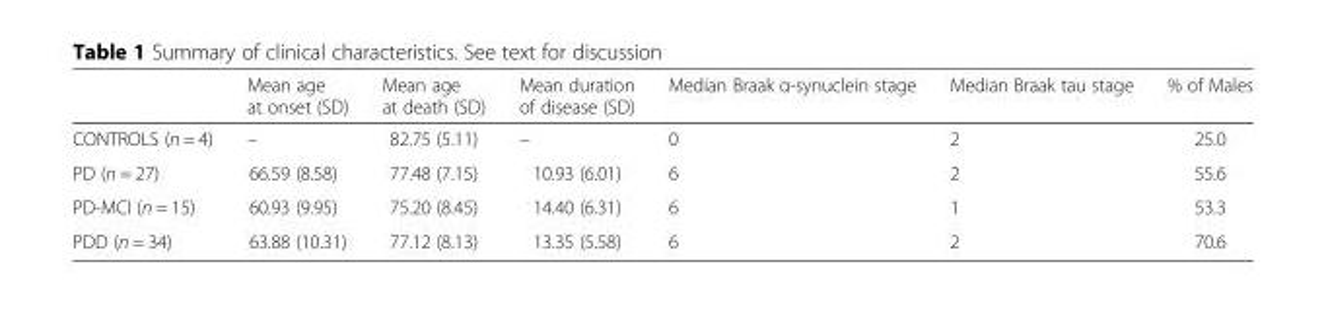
<table><thead><tr><td></td><td>Mean age at onset (SD)</td><td>Mean age at death (SD)</td><td>Mean duration of disease (SD)</td><td>Median Braak α-synuclein stage</td><td>Median Braak tau stage</td><td>% of Males</td></tr></thead><tbody><tr><td>CONTROLS (n = 4)</td><td>–</td><td>82.75 (5.11)</td><td>–</td><td>0</td><td>2</td><td>25.0</td></tr><tr><td>PD (n = 27)</td><td>66.59 (8.58)</td><td>77.48 (7.15)</td><td>10.93 (6.01)</td><td>6</td><td>2</td><td>55.6</td></tr><tr><td>PD-MCI (n = 15)</td><td>60.93 (9.95)</td><td>75.20 (8.45)</td><td>14.40 (6.31)</td><td>6</td><td>1</td><td>53.3</td></tr><tr><td>PDD (n = 34)</td><td>63.88 (10.31)</td><td>77.12 (8.13)</td><td>13.35 (5.58)</td><td>6</td><td>2</td><td>70.6</td></tr></tbody></table>